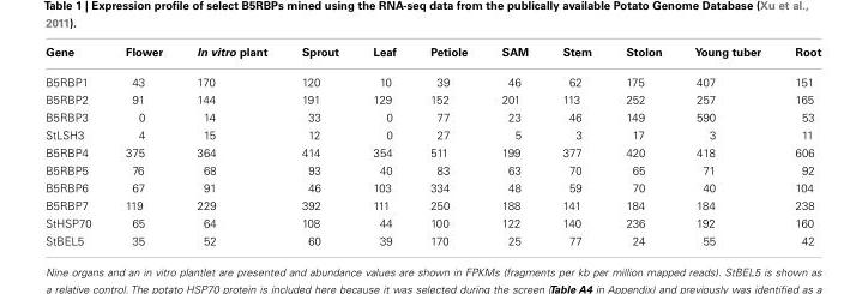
<table><thead><tr><td>Gene</td><td>Flower</td><td>In vitro plant</td><td>Sprout</td><td>Leaf</td><td>Petiole</td><td>SAM</td><td>Stem</td><td>Stolon</td><td>Young tuber</td><td>Root</td></tr></thead><tbody><tr><td>B5RBP1</td><td>43</td><td>170</td><td>120</td><td>10</td><td>39</td><td>46</td><td>62</td><td>175</td><td>407</td><td>151</td></tr><tr><td>B5RBP2</td><td>91</td><td>144</td><td>191</td><td>129</td><td>152</td><td>201</td><td>113</td><td>252</td><td>257</td><td>165</td></tr><tr><td>B5RBP3</td><td>0</td><td>14</td><td>33</td><td>0</td><td>77</td><td>23</td><td>46</td><td>149</td><td>590</td><td>53</td></tr><tr><td>StLSH3</td><td>4</td><td>15</td><td>12</td><td>0</td><td>27</td><td>5</td><td>3</td><td>17</td><td>3</td><td>11</td></tr><tr><td>B5RBP4</td><td>375</td><td>364</td><td>414</td><td>354</td><td>511</td><td>199</td><td>377</td><td>420</td><td>418</td><td>606</td></tr><tr><td>B5RBP5</td><td>76</td><td>68</td><td>93</td><td>40</td><td>83</td><td>63</td><td>70</td><td>65</td><td>71</td><td>92</td></tr><tr><td>B5RBP6</td><td>67</td><td>91</td><td>46</td><td>103</td><td>334</td><td>48</td><td>59</td><td>70</td><td>40</td><td>104</td></tr><tr><td>B5RBP7</td><td>119</td><td>229</td><td>392</td><td>111</td><td>250</td><td>188</td><td>141</td><td>184</td><td>184</td><td>238</td></tr><tr><td>StHSP70</td><td>65</td><td>64</td><td>108</td><td>44</td><td>100</td><td>122</td><td>140</td><td>236</td><td>192</td><td>160</td></tr><tr><td>StBEL5</td><td>35</td><td>52</td><td>60</td><td>39</td><td>170</td><td>25</td><td>77</td><td>24</td><td>55</td><td>42</td></tr></tbody></table>